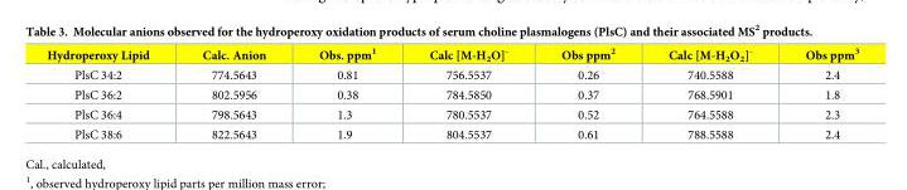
<table><thead><tr><td>Hydroperoxy Lipid</td><td>Calc. Anion</td><td>Obs. ppm<sup>1</sup></td><td>Calc [M-H<sub>2</sub>O]<sup>-</sup></td><td>Obs ppm<sup>2</sup></td><td>Calc [M-H<sub>2</sub>O<sub>2</sub>]<sup>-</sup></td><td>Obs ppm<sup>3</sup></td></tr></thead><tbody><tr><td>PlsC 34:2</td><td>774.5643</td><td>0.81</td><td>756.5537</td><td>0.26</td><td>740.5588</td><td>2.4</td></tr><tr><td>PlsC 36:2</td><td>802.5956</td><td>0.38</td><td>784.5850</td><td>0.37</td><td>768.5901</td><td>1.8</td></tr><tr><td>PlsC 36:4</td><td>798.5643</td><td>1.3</td><td>780.5537</td><td>0.52</td><td>764.5588</td><td>2.3</td></tr><tr><td>PlsC 38:6</td><td>822.5643</td><td>1.9</td><td>804.5537</td><td>0.61</td><td>788.5588</td><td>2.4</td></tr></tbody></table>